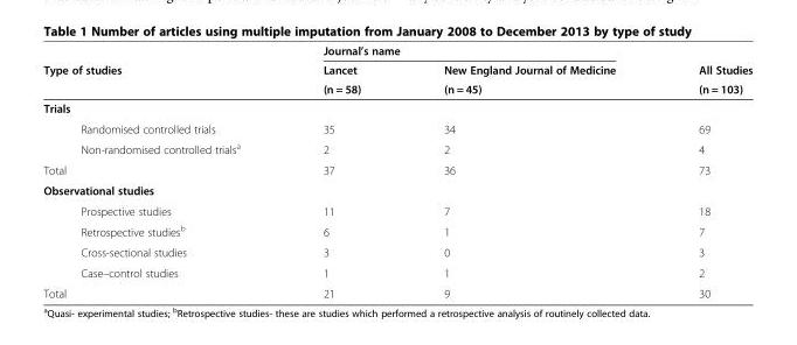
<table><thead><tr><td rowspan="3">Type of studies</td><td colspan="2">Journal’s name</td><td rowspan="3">All Studies (n = 103)</td></tr><tr><td rowspan="2">Lancet (n = 58)</td><td rowspan="2">New England Journal of Medicine (n = 45)</td></tr><tr></tr></thead><tbody><tr><td colspan="4">Trials</td></tr><tr><td>Randomised controlled trials</td><td>35</td><td>34</td><td>69</td></tr><tr><td>Non-randomised controlled trials<sup>a</sup></td><td>2</td><td>2</td><td>4</td></tr><tr><td>Total</td><td>37</td><td>36</td><td>73</td></tr><tr><td colspan="4">Observational studies</td></tr><tr><td>Prospective studies</td><td>11</td><td>7</td><td>18</td></tr><tr><td>Retrospective studies<sup>b</sup></td><td>6</td><td>1</td><td>7</td></tr><tr><td>Cross-sectional studies</td><td>3</td><td>0</td><td>3</td></tr><tr><td>Case–control studies</td><td>1</td><td>1</td><td>2</td></tr><tr><td>Total</td><td>21</td><td>9</td><td>30</td></tr></tbody></table>